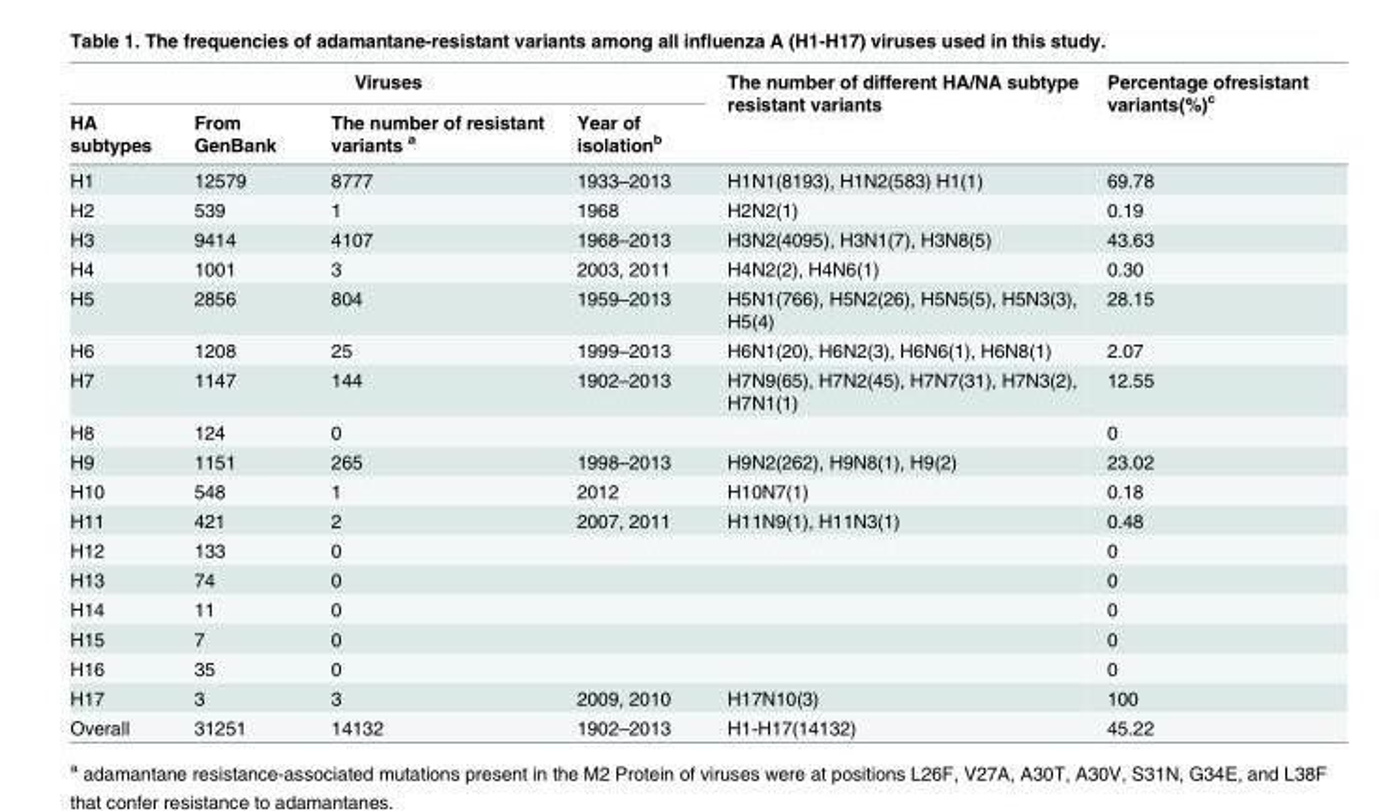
<table><thead><tr><td colspan="4">Viruses</td><td rowspan="2">The number of different HA/NA subtype resistant variants</td><td rowspan="2">Percentage ofresistant variants(%)<sup>c</sup></td></tr><tr><td>HA subtypes</td><td>From GenBank</td><td>The number of resistant variants <sup>a</sup></td><td>Year of isolation<sup>b</sup></td></tr></thead><tbody><tr><td>H1</td><td>12579</td><td>8777</td><td>1933–2013</td><td>H1N1(8193), H1N2(583)，H1(1)</td><td>69.78</td></tr><tr><td>H2</td><td>539</td><td>1</td><td>1968</td><td>H2N2(1)</td><td>0.19</td></tr><tr><td>H3</td><td>9414</td><td>4107</td><td>1968–2013</td><td>H3N2(4095), H3N1(7), H3N8(5)</td><td>43.63</td></tr><tr><td>H4</td><td>1001</td><td>3</td><td>2003, 2011</td><td>H4N2(2), H4N6(1)</td><td>0.30</td></tr><tr><td>H5</td><td>2856</td><td>804</td><td>1959–2013</td><td>H5N1(766), H5N2(26), H5N5(5), H5N3(3), H5(4)</td><td>28.15</td></tr><tr><td>H6</td><td>1208</td><td>25</td><td>1999–2013</td><td>H6N1(20), H6N2(3), H6N6(1), H6N8(1)</td><td>2.07</td></tr><tr><td>H7</td><td>1147</td><td>144</td><td>1902–2013</td><td>H7N9(65), H7N2(45), H7N7(31), H7N3(2), H7N1(1)</td><td>12.55</td></tr><tr><td>H8</td><td>124</td><td>0</td><td></td><td></td><td>0</td></tr><tr><td>H9</td><td>1151</td><td>265</td><td>1998–2013</td><td>H9N2(262), H9N8(1), H9(2)</td><td>23.02</td></tr><tr><td>H10</td><td>548</td><td>1</td><td>2012</td><td>H10N7(1)</td><td>0.18</td></tr><tr><td>H11</td><td>421</td><td>2</td><td>2007, 2011</td><td>H11N9(1), H11N3(1)</td><td>0.48</td></tr><tr><td>H12</td><td>133</td><td>0</td><td></td><td></td><td>0</td></tr><tr><td>H13</td><td>74</td><td>0</td><td></td><td></td><td>0</td></tr><tr><td>H14</td><td>11</td><td>0</td><td></td><td></td><td>0</td></tr><tr><td>H15</td><td>7</td><td>0</td><td></td><td></td><td>0</td></tr><tr><td>H16</td><td>35</td><td>0</td><td></td><td></td><td>0</td></tr><tr><td>H17</td><td>3</td><td>3</td><td>2009, 2010</td><td>H17N10(3)</td><td>100</td></tr><tr><td>Overall</td><td>31251</td><td>14132</td><td>1902–2013</td><td>H1-H17(14132)</td><td>45.22</td></tr></tbody></table>